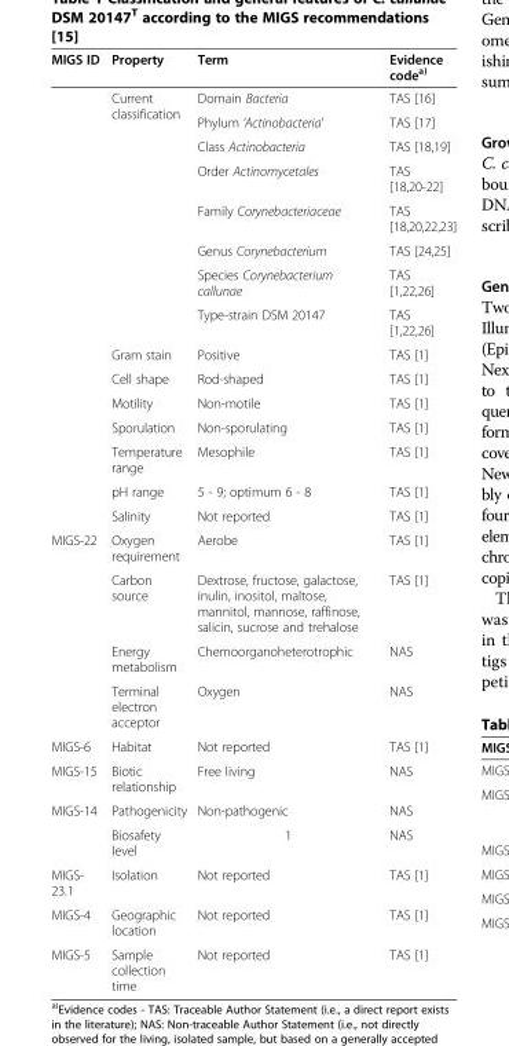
<table><thead><tr><td>MIGS ID</td><td>Property</td><td>Term</td><td>Evidence code<sup>a)</sup></td></tr></thead><tbody><tr><td rowspan="8"></td><td rowspan="8">Current classification</td><td>Domain Bacteria</td><td>TAS [16]</td></tr><tr><td>Phylum ‘Actinobacteria’</td><td>TAS [17]</td></tr><tr><td>Class Actinobacteria</td><td>TAS [18,19]</td></tr><tr><td>Order Actinomycetales</td><td>TAS [18,20-22]</td></tr><tr><td>Family Corynebacteriaceae</td><td>TAS [18,20,22,23]</td></tr><tr><td>Genus Corynebacterium</td><td>TAS [24,25]</td></tr><tr><td>Species Corynebacterium callunae</td><td>TAS [1,22,26]</td></tr><tr><td>Type-strain DSM 20147</td><td>TAS [1,22,26]</td></tr><tr><td></td><td>Gram stain</td><td>Positive</td><td>TAS [1]</td></tr><tr><td></td><td>Cell shape</td><td>Rod-shaped</td><td>TAS [1]</td></tr><tr><td></td><td>Motility</td><td>Non-motile</td><td>TAS [1]</td></tr><tr><td></td><td>Sporulation</td><td>Non-sporulating</td><td>TAS [1]</td></tr><tr><td></td><td>Temperature range</td><td>Mesophile</td><td>TAS [1]</td></tr><tr><td></td><td>pH range</td><td>5 - 9; optimum 6 - 8</td><td>TAS [1]</td></tr><tr><td></td><td>Salinity</td><td>Not reported</td><td>TAS [1]</td></tr><tr><td rowspan="4">MIGS-22</td><td>Oxygen requirement</td><td>Aerobe</td><td>TAS [1]</td></tr><tr><td>Carbon source</td><td>Dextrose, fructose, galactose, inulin, inositol, maltose, mannitol, mannose, raffinose, salicin, sucrose and trehalose</td><td>TAS [1]</td></tr><tr><td>Energy metabolism</td><td>Chemoorganoheterotrophic</td><td>NAS</td></tr><tr><td>Terminal electron acceptor</td><td>Oxygen</td><td>NAS</td></tr><tr><td>MIGS-6</td><td>Habitat</td><td>Not reported</td><td>TAS [1]</td></tr><tr><td>MIGS-15</td><td>Biotic relationship</td><td>Free living</td><td>NAS</td></tr><tr><td rowspan="2">MIGS-14</td><td>Pathogenicity</td><td>Non-pathogenic</td><td>NAS</td></tr><tr><td>Biosafety level</td><td>1</td><td>NAS</td></tr><tr><td>MIGS- 23.1</td><td>Isolation</td><td>Not reported</td><td>TAS [1]</td></tr><tr><td>MIGS-4</td><td>Geographic location</td><td>Not reported</td><td>TAS [1]</td></tr><tr><td>MIGS-5</td><td>Sample collection time</td><td>Not reported</td><td>TAS [1]</td></tr></tbody></table>